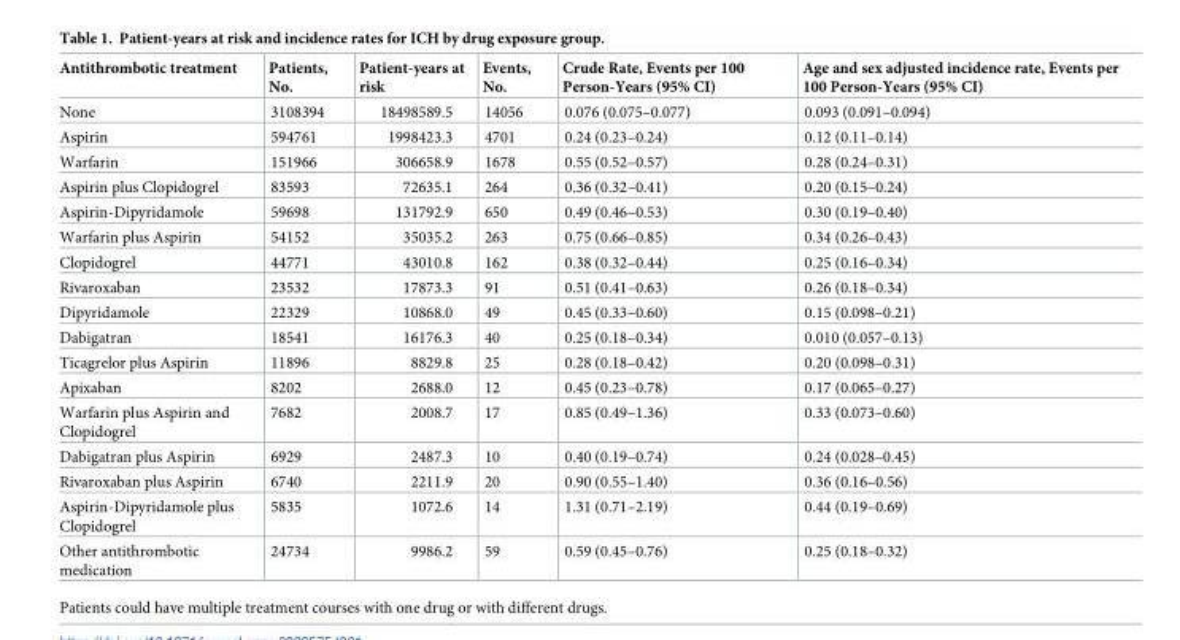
<table><thead><tr><td>Antithrombotic treatment</td><td>Patients, No.</td><td>Patient-years at risk</td><td>Events, No.</td><td>Crude Rate, Events per 100 Person-Years (95% CI)</td><td>Age and sex adjusted incidence rate, Events per 100 Person-Years (95% CI)</td></tr></thead><tbody><tr><td>None</td><td>3108394</td><td>18498589.5</td><td>14056</td><td>0.076 (0.075–0.077)</td><td>0.093 (0.091–0.094)</td></tr><tr><td>Aspirin</td><td>594761</td><td>1998423.3</td><td>4701</td><td>0.24 (0.23–0.24)</td><td>0.12 (0.11–0.14)</td></tr><tr><td>Warfarin</td><td>151966</td><td>306658.9</td><td>1678</td><td>0.55 (0.52–0.57)</td><td>0.28 (0.24–0.31)</td></tr><tr><td>Aspirin plus Clopidogrel</td><td>83593</td><td>72635.1</td><td>264</td><td>0.36 (0.32–0.41)</td><td>0.20 (0.15–0.24)</td></tr><tr><td>Aspirin-Dipyridamole</td><td>59698</td><td>131792.9</td><td>650</td><td>0.49 (0.46–0.53)</td><td>0.30 (0.19–0.40)</td></tr><tr><td>Warfarin plus Aspirin</td><td>54152</td><td>35035.2</td><td>263</td><td>0.75 (0.66–0.85)</td><td>0.34 (0.26–0.43)</td></tr><tr><td>Clopidogrel</td><td>44771</td><td>43010.8</td><td>162</td><td>0.38 (0.32–0.44)</td><td>0.25 (0.16–0.34)</td></tr><tr><td>Rivaroxaban</td><td>23532</td><td>17873.3</td><td>91</td><td>0.51 (0.41–0.63)</td><td>0.26 (0.18–0.34)</td></tr><tr><td>Dipyridamole</td><td>22329</td><td>10868.0</td><td>49</td><td>0.45 (0.33–0.60)</td><td>0.15 (0.098–0.21)</td></tr><tr><td>Dabigatran</td><td>18541</td><td>16176.3</td><td>40</td><td>0.25 (0.18–0.34)</td><td>0.010 (0.057–0.13)</td></tr><tr><td>Ticagrelor plus Aspirin</td><td>11896</td><td>8829.8</td><td>25</td><td>0.28 (0.18–0.42)</td><td>0.20 (0.098–0.31)</td></tr><tr><td>Apixaban</td><td>8202</td><td>2688.0</td><td>12</td><td>0.45 (0.23–0.78)</td><td>0.17 (0.065–0.27)</td></tr><tr><td>Warfarin plus Aspirin and Clopidogrel</td><td>7682</td><td>2008.7</td><td>17</td><td>0.85 (0.49–1.36)</td><td>0.33 (0.073–0.60)</td></tr><tr><td>Dabigatran plus Aspirin</td><td>6929</td><td>2487.3</td><td>10</td><td>0.40 (0.19–0.74)</td><td>0.24 (0.028–0.45)</td></tr><tr><td>Rivaroxaban plus Aspirin</td><td>6740</td><td>2211.9</td><td>20</td><td>0.90 (0.55–1.40)</td><td>0.36 (0.16–0.56)</td></tr><tr><td>Aspirin-Dipyridamole plus Clopidogrel</td><td>5835</td><td>1072.6</td><td>14</td><td>1.31 (0.71–2.19)</td><td>0.44 (0.19–0.69)</td></tr><tr><td>Other antithrombotic medication</td><td>24734</td><td>9986.2</td><td>59</td><td>0.59 (0.45–0.76)</td><td>0.25 (0.18–0.32)</td></tr></tbody></table>